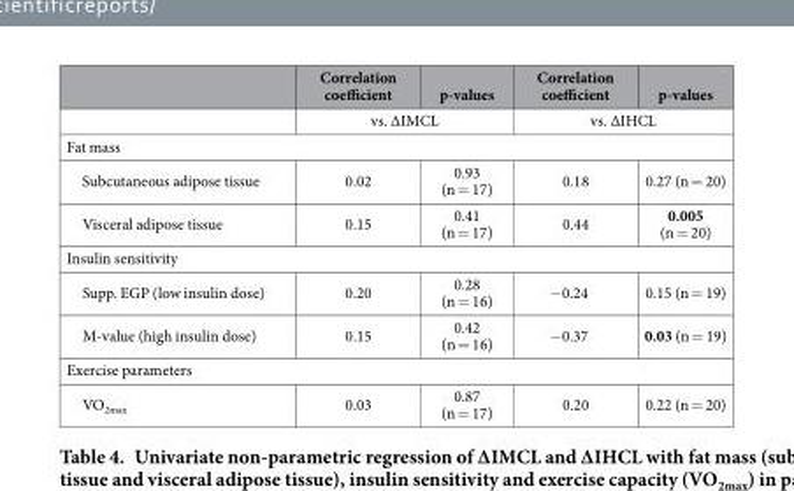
<table><thead><tr><td></td><td>Correlation coefficient</td><td>p-values</td><td>Correlation coefficient</td><td>p-values</td></tr></thead><tbody><tr><td></td><td colspan="2">vs. ∆IMCL</td><td colspan="2">vs. ∆IHCL</td></tr><tr><td colspan="5">Fat mass</td></tr><tr><td>Subcutaneous adipose tissue</td><td>0.02</td><td>0.93 (n = 17)</td><td>0.18</td><td>0.27 (n = 20)</td></tr><tr><td>Visceral adipose tissue</td><td>0.15</td><td>0.41 (n = 17)</td><td>0.44</td><td>0.005 (n = 20)</td></tr><tr><td colspan="5">Insulin sensitivity</td></tr><tr><td>Supp. EGP (low insulin dose)</td><td>0.20</td><td>0.28 (n = 16)</td><td>−0.24</td><td>0.15 (n = 19)</td></tr><tr><td>M-value (high insulin dose)</td><td>0.15</td><td>0.42 (n = 16)</td><td>−0.37</td><td>0.03 (n = 19)</td></tr><tr><td colspan="5">Exercise parameters</td></tr><tr><td>VO<sub>2max</sub></td><td>0.03</td><td>0.87 (n = 17)</td><td>0.20</td><td>0.22 (n = 20)</td></tr></tbody></table>